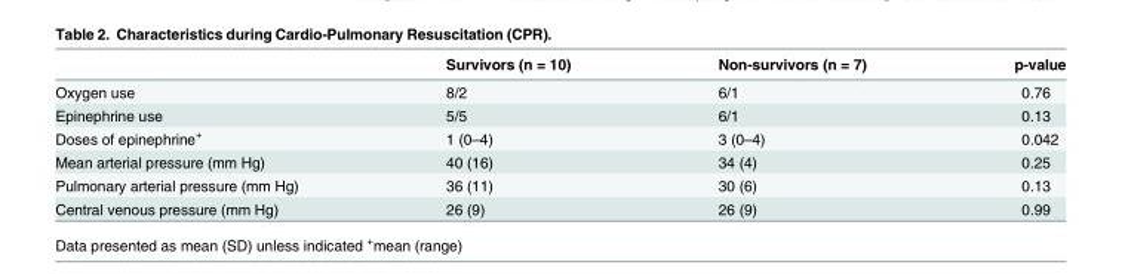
<table><thead><tr><td></td><td>Survivors (n = 10)</td><td>Non-survivors (n = 7)</td><td>p-value</td></tr></thead><tbody><tr><td>Oxygen use</td><td>8/2</td><td>6/1</td><td>0.76</td></tr><tr><td>Epinephrine use</td><td>5/5</td><td>6/1</td><td>0.13</td></tr><tr><td>Doses of epinephrine<sup>+</sup></td><td>1 (0–4)</td><td>3 (0–4)</td><td>0.042</td></tr><tr><td>Mean arterial pressure (mm Hg)</td><td>40 (16)</td><td>34 (4)</td><td>0.25</td></tr><tr><td>Pulmonary arterial pressure (mm Hg)</td><td>36 (11)</td><td>30 (6)</td><td>0.13</td></tr><tr><td>Central venous pressure (mm Hg)</td><td>26 (9)</td><td>26 (9)</td><td>0.99</td></tr></tbody></table>